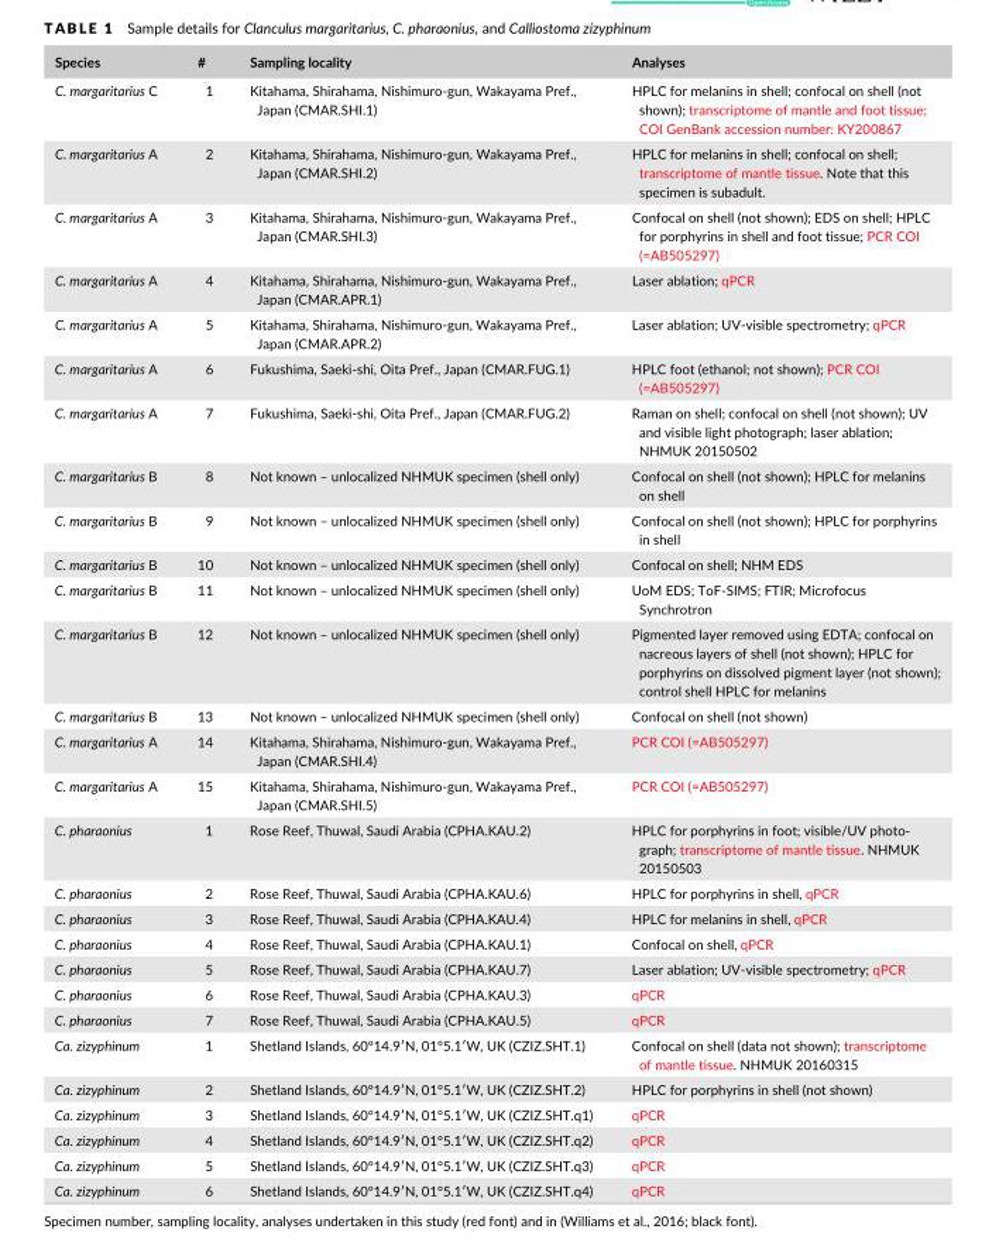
<table><thead><tr><td>Species</td><td>#</td><td>Sampling locality</td><td>Analyses</td></tr></thead><tbody><tr><td>C. margaritarius C</td><td>1</td><td>Kitahama, Shirahama, Nishimuro- gun, Wakayama Pref., Japan (CMAR.SHI.1)</td><td>HPLC for melanins in shell; confocal on shell (not shown); transcriptome of mantle and foot tissue; COI GenBank accession number: KY200867</td></tr><tr><td>C. margaritarius A</td><td>2</td><td>Kitahama, Shirahama, Nishimuro- gun, Wakayama Pref., Japan (CMAR.SHI.2)</td><td>HPLC for melanins in shell; confocal on shell; transcriptome of mantle tissue. Note that this specimen is subadult.</td></tr><tr><td>C. margaritarius A</td><td>3</td><td>Kitahama, Shirahama, Nishimuro- gun, Wakayama Pref., Japan (CMAR.SHI.3)</td><td>Confocal on shell (not shown); EDS on shell; HPLC for porphyrins in shell and foot tissue; PCR COI (=AB505297)</td></tr><tr><td>C. margaritarius A</td><td>4</td><td>Kitahama, Shirahama, Nishimuro- gun, Wakayama Pref., Japan (CMAR.APR.1)</td><td>Laser ablation; qPCR</td></tr><tr><td>C. margaritarius A</td><td>5</td><td>Kitahama, Shirahama, Nishimuro- gun, Wakayama Pref., Japan (CMAR.APR.2)</td><td>Laser ablation; UV- visible spectrometry; qPCR</td></tr><tr><td>C. margaritarius A</td><td>6</td><td>Fukushima, Saeki- shi, Oita Pref., Japan (CMAR.FUG.1)</td><td>HPLC foot (ethanol; not shown); PCR COI (=AB505297)</td></tr><tr><td>C. margaritarius A</td><td>7</td><td>Fukushima, Saeki- shi, Oita Pref., Japan (CMAR.FUG.2)</td><td>Raman on shell; confocal on shell (not shown); UV and visible light photograph; laser ablation; NHMUK 20150502</td></tr><tr><td>C. margaritarius B</td><td>8</td><td>Not known – unlocalized NHMUK specimen (shell only)</td><td>Confocal on shell (not shown); HPLC for melanins on shell</td></tr><tr><td>C. margaritarius B</td><td>9</td><td>Not known – unlocalized NHMUK specimen (shell only)</td><td>Confocal on shell (not shown); HPLC for porphyrins in shell</td></tr><tr><td>C. margaritarius B</td><td>10</td><td>Not known – unlocalized NHMUK specimen (shell only)</td><td>Confocal on shell; NHM EDS</td></tr><tr><td>C. margaritarius B</td><td>11</td><td>Not known – unlocalized NHMUK specimen (shell only)</td><td>UoM EDS; ToF- SIMS; FTIR; Microfocus Synchrotron</td></tr><tr><td>C. margaritarius B</td><td>12</td><td>Not known – unlocalized NHMUK specimen (shell only)</td><td>Pigmented layer removed using EDTA; confocal on nacreous layers of shell (not shown); HPLC for porphyrins on dissolved pigment layer (not shown); control shell HPLC for melanins</td></tr><tr><td>C. margaritarius B</td><td>13</td><td>Not known – unlocalized NHMUK specimen (shell only)</td><td>Confocal on shell (not shown)</td></tr><tr><td>C. margaritarius A</td><td>14</td><td>Kitahama, Shirahama, Nishimuro- gun, Wakayama Pref., Japan (CMAR.SHI.4)</td><td>PCR COI (=AB505297)</td></tr><tr><td>C. margaritarius A</td><td>15</td><td>Kitahama, Shirahama, Nishimuro- gun, Wakayama Pref., Japan (CMAR.SHI.5)</td><td>PCR COI (=AB505297)</td></tr><tr><td>C. pharaonius</td><td>1</td><td>Rose Reef, Thuwal, Saudi Arabia (CPHA.KAU.2)</td><td>HPLC for porphyrins in foot; visible/UV photo- graph; transcriptome of mantle tissue. NHMUK 20150503</td></tr><tr><td>C. pharaonius</td><td>2</td><td>Rose Reef, Thuwal, Saudi Arabia (CPHA.KAU.6)</td><td>HPLC for porphyrins in shell, qPCR</td></tr><tr><td>C. pharaonius</td><td>3</td><td>Rose Reef, Thuwal, Saudi Arabia (CPHA.KAU.4)</td><td>HPLC for melanins in shell, qPCR</td></tr><tr><td>C. pharaonius</td><td>4</td><td>Rose Reef, Thuwal, Saudi Arabia (CPHA.KAU.1)</td><td>Confocal on shell, qPCR</td></tr><tr><td>C. pharaonius</td><td>5</td><td>Rose Reef, Thuwal, Saudi Arabia (CPHA.KAU.7)</td><td>Laser ablation; UV- visible spectrometry; qPCR</td></tr><tr><td>C. pharaonius</td><td>6</td><td>Rose Reef, Thuwal, Saudi Arabia (CPHA.KAU.3)</td><td>qPCR</td></tr><tr><td>C. pharaonius</td><td>7</td><td>Rose Reef, Thuwal, Saudi Arabia (CPHA.KAU.5)</td><td>qPCR</td></tr><tr><td>Ca. zizyphinum</td><td>1</td><td>Shetland Islands, 60°14.9′N, 01°5.1′W, UK (CZIZ.SHT.1)</td><td>Confocal on shell (data not shown); transcriptome of mantle tissue. NHMUK 20160315</td></tr><tr><td>Ca. zizyphinum</td><td>2</td><td>Shetland Islands, 60°14.9′N, 01°5.1′W, UK (CZIZ.SHT.2)</td><td>HPLC for porphyrins in shell (not shown)</td></tr><tr><td>Ca. zizyphinum</td><td>3</td><td>Shetland Islands, 60°14.9′N, 01°5.1′W, UK (CZIZ.SHT.q1)</td><td>qPCR</td></tr><tr><td>Ca. zizyphinum</td><td>4</td><td>Shetland Islands, 60°14.9′N, 01°5.1′W, UK (CZIZ.SHT.q2)</td><td>qPCR</td></tr><tr><td>Ca. zizyphinum</td><td>5</td><td>Shetland Islands, 60°14.9′N, 01°5.1′W, UK (CZIZ.SHT.q3)</td><td>qPCR</td></tr><tr><td>Ca. zizyphinum</td><td>6</td><td>Shetland Islands, 60°14.9′N, 01°5.1′W, UK (CZIZ.SHT.q4)</td><td>qPCR</td></tr></tbody></table>